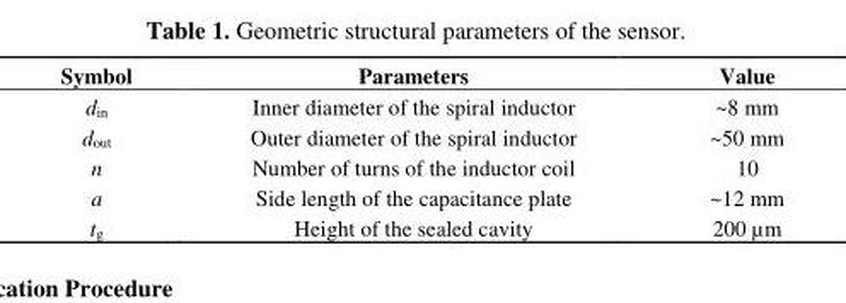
<table><thead><tr><td>Symbol</td><td>Parameters</td><td>Value</td></tr></thead><tbody><tr><td>d<sub>in</sub></td><td>Inner diameter of the spiral inductor</td><td>~8 mm</td></tr><tr><td>d<sub>out</sub></td><td>Outer diameter of the spiral inductor</td><td>~50 mm</td></tr><tr><td>n</td><td>Number of turns of the inductor coil</td><td>10</td></tr><tr><td>a</td><td>Side length of the capacitance plate</td><td>~12 mm</td></tr><tr><td>t<sub>g</sub></td><td>Height of the sealed cavity</td><td>200 µm</td></tr></tbody></table>